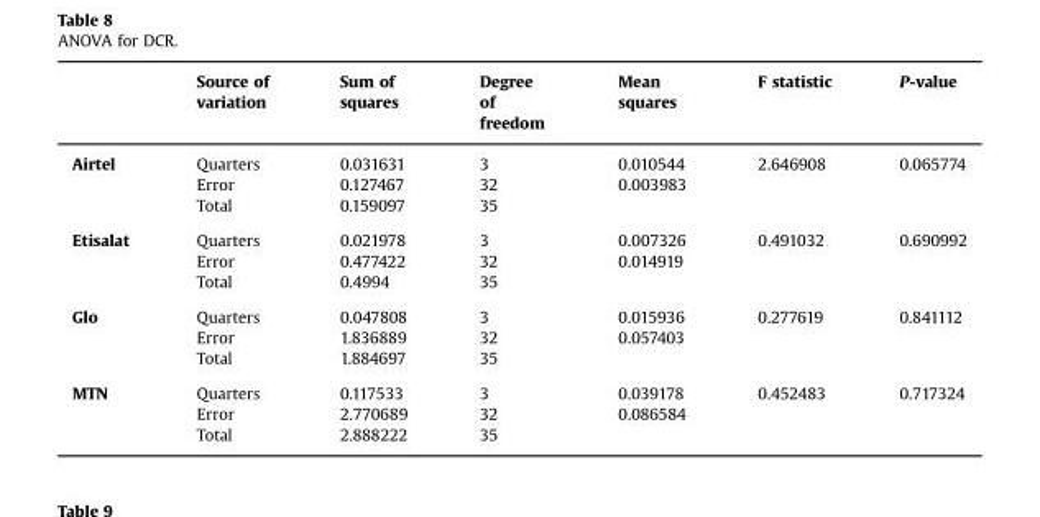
<table><thead><tr><td></td><td>Source of variation</td><td>Sum of squares</td><td>Degree of freedom</td><td>Mean squares</td><td>F statistic</td><td>P-value</td></tr></thead><tbody><tr><td rowspan="3">Airtel</td><td>Quarters</td><td>0.031631</td><td>3</td><td>0.010544</td><td>2.646908</td><td>0.065774</td></tr><tr><td>Error</td><td>0.127467</td><td>32</td><td>0.003983</td><td></td><td></td></tr><tr><td>Total</td><td>0.159097</td><td>35</td><td></td><td></td><td></td></tr><tr><td rowspan="3">Etisalat</td><td>Quarters</td><td>0.021978</td><td>3</td><td>0.007326</td><td>0.491032</td><td>0.690992</td></tr><tr><td>Error</td><td>0.477422</td><td>32</td><td>0.014919</td><td></td><td></td></tr><tr><td>Total</td><td>0.4994</td><td>35</td><td></td><td></td><td></td></tr><tr><td rowspan="3">Glo</td><td>Quarters</td><td>0.047808</td><td>3</td><td>0.015936</td><td>0.277619</td><td>0.841112</td></tr><tr><td>Error</td><td>1.836889</td><td>32</td><td>0.057403</td><td></td><td></td></tr><tr><td>Total</td><td>1.884697</td><td>35</td><td></td><td></td><td></td></tr><tr><td rowspan="3">MTN</td><td>Quarters</td><td>0.117533</td><td>3</td><td>0.039178</td><td>0.452483</td><td>0.717324</td></tr><tr><td>Error</td><td>2.770689</td><td>32</td><td>0.086584</td><td></td><td></td></tr><tr><td>Total</td><td>2.888222</td><td>35</td><td></td><td></td><td></td></tr></tbody></table>